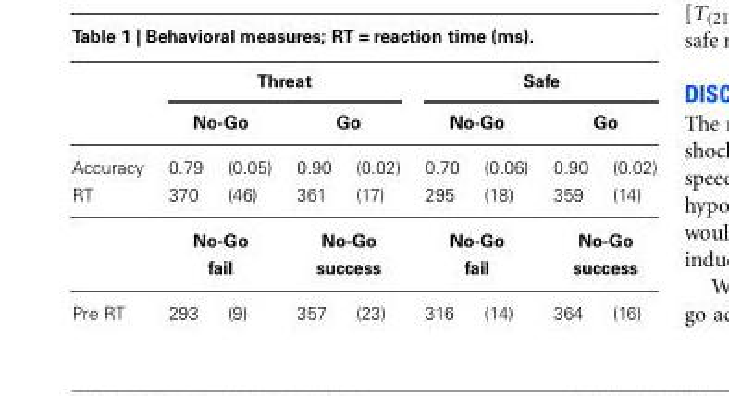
<table><thead><tr><td rowspan="3">Accuracy</td><td colspan="4">Threat</td><td colspan="4">Safe</td></tr><tr><td colspan="2">No-Go</td><td colspan="2">Go</td><td colspan="2">No-Go</td><td colspan="2">Go</td></tr><tr><td>0.79</td><td>(0.05)</td><td>0.90</td><td>(0.02)</td><td>0.70</td><td>(0.06)</td><td>0.90</td><td>(0.02)</td></tr></thead><tbody><tr><td rowspan="3">RT</td><td>370</td><td>(46)</td><td>361</td><td>(17)</td><td>295</td><td>(18)</td><td>359</td><td>(14)</td></tr><tr><td colspan="2">No-Go</td><td colspan="2">No-Go</td><td colspan="2">No-Go</td><td colspan="2">No-Go</td></tr><tr><td colspan="2">fail</td><td colspan="2">success</td><td colspan="2">fail</td><td colspan="2">success</td></tr><tr><td>Pre RT</td><td>293</td><td>(9)</td><td>357</td><td>(23)</td><td>316</td><td>(14)</td><td>364</td><td>(16)</td></tr></tbody></table>